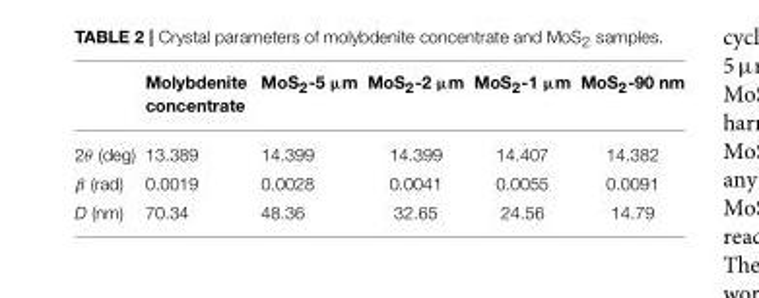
<table><thead><tr><td></td><td>Molybdenite concentrate</td><td>MoS<sub>2</sub>-5 µm</td><td>MoS<sub>2</sub>-2 µm</td><td>MoS<sub>2</sub>-1 µm</td><td>MoS<sub>2</sub>-90 nm</td></tr></thead><tbody><tr><td>2θ (deg)</td><td>13.389</td><td>14.399</td><td>14.399</td><td>14.407</td><td>14.382</td></tr><tr><td>β (rad)</td><td>0.0019</td><td>0.0028</td><td>0.0041</td><td>0.0055</td><td>0.0091</td></tr><tr><td>D (nm)</td><td>70.34</td><td>48.36</td><td>32.65</td><td>24.56</td><td>14.79</td></tr></tbody></table>